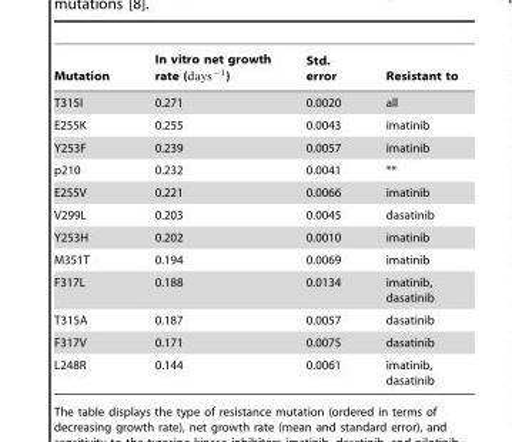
<table><thead><tr><td>Mutation</td><td>In vitro net growth rate (days{1)</td><td>Std. error</td><td>Resistant to</td></tr></thead><tbody><tr><td>T315I</td><td>0.271</td><td>0.0020</td><td>all</td></tr><tr><td>E255K</td><td>0.255</td><td>0.0043</td><td>imatinib</td></tr><tr><td>Y253F</td><td>0.239</td><td>0.0057</td><td>imatinib</td></tr><tr><td>p210</td><td>0.232</td><td>0.0041</td><td>**</td></tr><tr><td>E255V</td><td>0.221</td><td>0.0066</td><td>imatinib</td></tr><tr><td>V299L</td><td>0.203</td><td>0.0045</td><td>dasatinib</td></tr><tr><td>Y253H</td><td>0.202</td><td>0.0010</td><td>imatinib</td></tr><tr><td>M351T</td><td>0.194</td><td>0.0069</td><td>imatinib</td></tr><tr><td>F317L</td><td>0.188</td><td>0.0134</td><td>imatinib, dasatinib</td></tr><tr><td>T315A</td><td>0.187</td><td>0.0057</td><td>dasatinib</td></tr><tr><td>F317V</td><td>0.171</td><td>0.0075</td><td>dasatinib</td></tr><tr><td>L248R</td><td>0.144</td><td>0.0061</td><td>imatinib, dasatinib</td></tr></tbody></table>